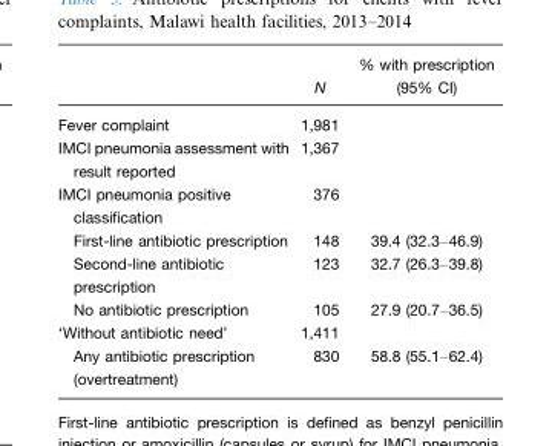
<table><thead><tr><td></td><td>N</td><td>% with prescription (95% CI)</td></tr></thead><tbody><tr><td>Fever complaint</td><td>1,981</td><td></td></tr><tr><td>IMCI pneumonia assessment with result reported</td><td>1,367</td><td></td></tr><tr><td>IMCI pneumonia positive classification</td><td>376</td><td></td></tr><tr><td>First-line antibiotic prescription</td><td>148</td><td>39.4 (32.3–46.9)</td></tr><tr><td>Second-line antibiotic prescription</td><td>123</td><td>32.7 (26.3–39.8)</td></tr><tr><td>No antibiotic prescription</td><td>105</td><td>27.9 (20.7–36.5)</td></tr><tr><td>‘Without antibiotic need’</td><td>1,411</td><td></td></tr><tr><td>Any antibiotic prescription (overtreatment)</td><td>830</td><td>58.8 (55.1–62.4)</td></tr></tbody></table>